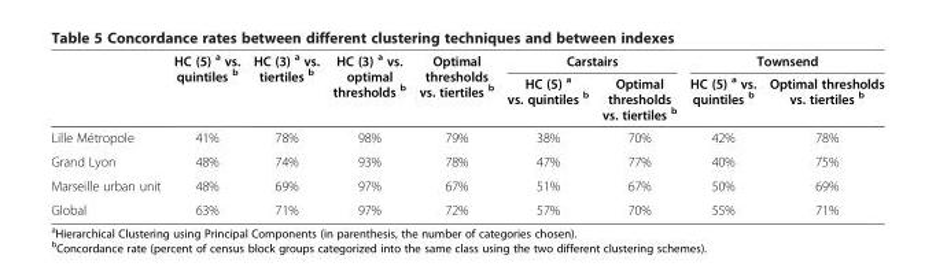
<table><thead><tr><td rowspan="2"></td><td rowspan="2">HC (5) <sup>a</sup> vs. quintiles <sup>b</sup></td><td rowspan="2">HC (3) <sup>a</sup> vs. tiertiles <sup>b</sup></td><td rowspan="2">HC (3) <sup>a</sup> vs. optimal thresholds <sup>b</sup></td><td rowspan="2">Optimal thresholds vs. tiertiles <sup>b</sup></td><td colspan="2">Carstairs</td><td colspan="2">Townsend</td></tr><tr><td>HC (5) <sup>a</sup> vs. quintiles <sup>b</sup></td><td>Optimal thresholds vs. tiertiles <sup>b</sup></td><td>HC (5) <sup>a</sup> vs. quintiles <sup>b</sup></td><td>Optimal thresholds vs. tiertiles <sup>b</sup></td></tr></thead><tbody><tr><td>Lille Métropole</td><td>41%</td><td>78%</td><td>98%</td><td>79%</td><td>38%</td><td>70%</td><td>42%</td><td>78%</td></tr><tr><td>Grand Lyon</td><td>48%</td><td>74%</td><td>93%</td><td>78%</td><td>47%</td><td>77%</td><td>40%</td><td>75%</td></tr><tr><td>Marseille urban unit</td><td>48%</td><td>69%</td><td>97%</td><td>67%</td><td>51%</td><td>67%</td><td>50%</td><td>69%</td></tr><tr><td>Global</td><td>63%</td><td>71%</td><td>97%</td><td>72%</td><td>57%</td><td>70%</td><td>55%</td><td>71%</td></tr></tbody></table>